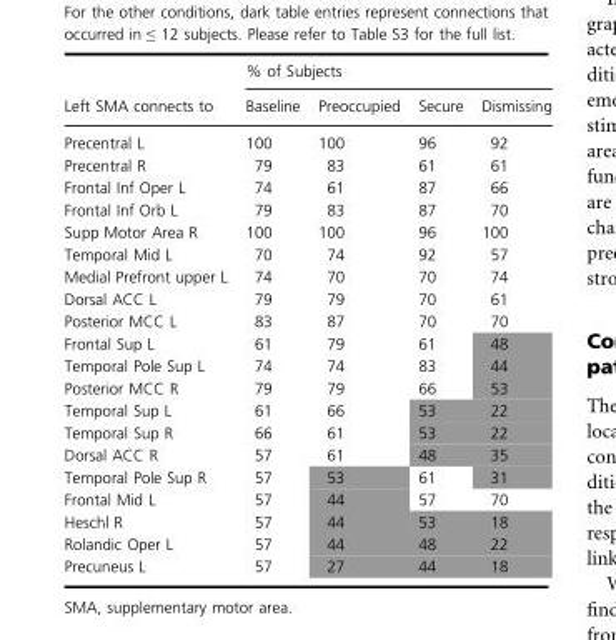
<table><thead><tr><td rowspan="2">Left SMA connects to</td><td colspan="4">% of Subjects</td></tr><tr><td>Baseline</td><td>Preoccupied</td><td>Secure</td><td>Dismissing</td></tr></thead><tbody><tr><td>Precentral L</td><td>100</td><td>100</td><td>96</td><td>92</td></tr><tr><td>Precentral R</td><td>79</td><td>83</td><td>61</td><td>61</td></tr><tr><td>Frontal Inf Oper L</td><td>74</td><td>61</td><td>87</td><td>66</td></tr><tr><td>Frontal Inf Orb L</td><td>79</td><td>83</td><td>87</td><td>70</td></tr><tr><td>Supp Motor Area R</td><td>100</td><td>100</td><td>96</td><td>100</td></tr><tr><td>Temporal Mid L</td><td>70</td><td>74</td><td>92</td><td>57</td></tr><tr><td>Medial Prefront upper L</td><td>74</td><td>70</td><td>70</td><td>74</td></tr><tr><td>Dorsal ACC L</td><td>79</td><td>79</td><td>70</td><td>61</td></tr><tr><td>Posterior MCC L</td><td>83</td><td>87</td><td>70</td><td>70</td></tr><tr><td>Frontal Sup L</td><td>61</td><td>79</td><td>61</td><td>48</td></tr><tr><td>Temporal Pole Sup L</td><td>74</td><td>74</td><td>83</td><td>44</td></tr><tr><td>Posterior MCC R</td><td>79</td><td>79</td><td>66</td><td>53</td></tr><tr><td>Temporal Sup L</td><td>61</td><td>66</td><td>53</td><td>22</td></tr><tr><td>Temporal Sup R</td><td>66</td><td>61</td><td>53</td><td>22</td></tr><tr><td>Dorsal ACC R</td><td>57</td><td>61</td><td>48</td><td>35</td></tr><tr><td>Temporal Pole Sup R</td><td>57</td><td>53</td><td>61</td><td>31</td></tr><tr><td>Frontal Mid L</td><td>57</td><td>44</td><td>57</td><td>70</td></tr><tr><td>Heschl R</td><td>57</td><td>44</td><td>53</td><td>18</td></tr><tr><td>Rolandic Oper L</td><td>57</td><td>44</td><td>48</td><td>22</td></tr><tr><td>Precuneus L</td><td>57</td><td>27</td><td>44</td><td>18</td></tr></tbody></table>